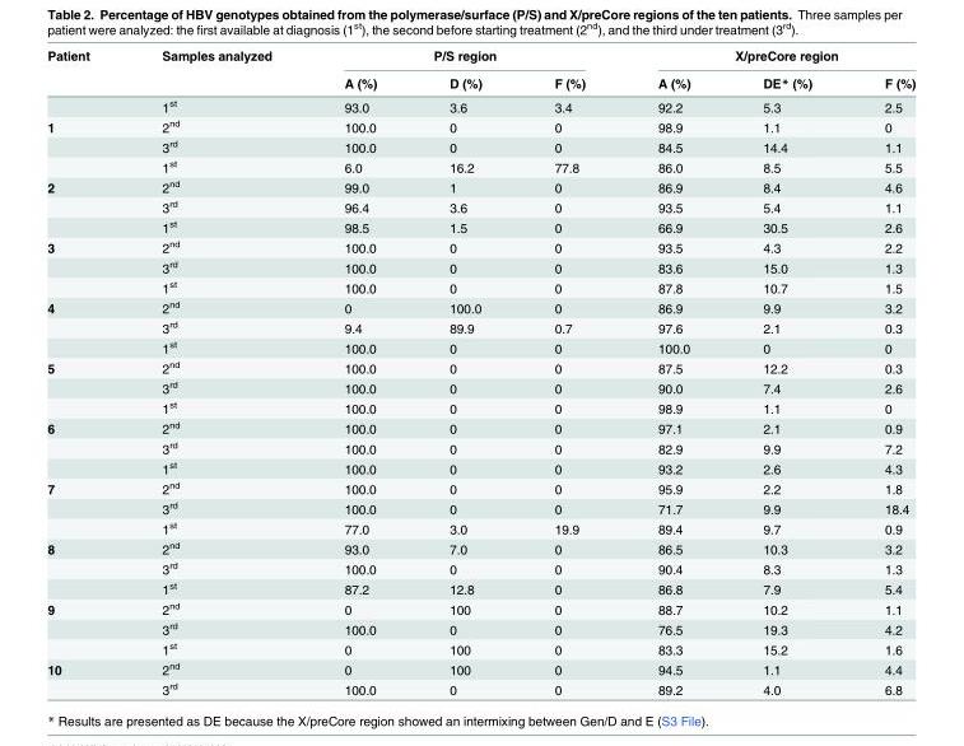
<table><thead><tr><td rowspan="2">Patient</td><td rowspan="2">Samples analyzed</td><td colspan="3">P/S region</td><td colspan="3">X/preCore region</td></tr><tr><td>A (%)</td><td>D (%)</td><td>F (%)</td><td>A (%)</td><td>DE* (%)</td><td>F (%)</td></tr></thead><tbody><tr><td></td><td>1<sup>st</sup></td><td>93.0</td><td>3.6</td><td>3.4</td><td>92.2</td><td>5.3</td><td>2.5</td></tr><tr><td rowspan="3">1</td><td>2<sup>nd</sup></td><td>100.0</td><td>0</td><td>0</td><td>98.9</td><td>1.1</td><td>0</td></tr><tr><td>3<sup>rd</sup></td><td>100.0</td><td>0</td><td>0</td><td>84.5</td><td>14.4</td><td>1.1</td></tr><tr><td>1<sup>st</sup></td><td>6.0</td><td>16.2</td><td>77.8</td><td>86.0</td><td>8.5</td><td>5.5</td></tr><tr><td rowspan="3">2</td><td>2<sup>nd</sup></td><td>99.0</td><td>1</td><td>0</td><td>86.9</td><td>8.4</td><td>4.6</td></tr><tr><td>3<sup>rd</sup></td><td>96.4</td><td>3.6</td><td>0</td><td>93.5</td><td>5.4</td><td>1.1</td></tr><tr><td>1<sup>st</sup></td><td>98.5</td><td>1.5</td><td>0</td><td>66.9</td><td>30.5</td><td>2.6</td></tr><tr><td rowspan="3">3</td><td>2<sup>nd</sup></td><td>100.0</td><td>0</td><td>0</td><td>93.5</td><td>4.3</td><td>2.2</td></tr><tr><td>3<sup>rd</sup></td><td>100.0</td><td>0</td><td>0</td><td>83.6</td><td>15.0</td><td>1.3</td></tr><tr><td>1<sup>st</sup></td><td>100.0</td><td>0</td><td>0</td><td>87.8</td><td>10.7</td><td>1.5</td></tr><tr><td rowspan="3">4</td><td>2<sup>nd</sup></td><td>0</td><td>100.0</td><td>0</td><td>86.9</td><td>9.9</td><td>3.2</td></tr><tr><td>3<sup>rd</sup></td><td>9.4</td><td>89.9</td><td>0.7</td><td>97.6</td><td>2.1</td><td>0.3</td></tr><tr><td>1<sup>st</sup></td><td>100.0</td><td>0</td><td>0</td><td>100.0</td><td>0</td><td>0</td></tr><tr><td rowspan="3">5</td><td>2<sup>nd</sup></td><td>100.0</td><td>0</td><td>0</td><td>87.5</td><td>12.2</td><td>0.3</td></tr><tr><td>3<sup>rd</sup></td><td>100.0</td><td>0</td><td>0</td><td>90.0</td><td>7.4</td><td>2.6</td></tr><tr><td>1<sup>st</sup></td><td>100.0</td><td>0</td><td>0</td><td>98.9</td><td>1.1</td><td>0</td></tr><tr><td rowspan="3">6</td><td>2<sup>nd</sup></td><td>100.0</td><td>0</td><td>0</td><td>97.1</td><td>2.1</td><td>0.9</td></tr><tr><td>3<sup>rd</sup></td><td>100.0</td><td>0</td><td>0</td><td>82.9</td><td>9.9</td><td>7.2</td></tr><tr><td>1<sup>st</sup></td><td>100.0</td><td>0</td><td>0</td><td>93.2</td><td>2.6</td><td>4.3</td></tr><tr><td rowspan="3">7</td><td>2<sup>nd</sup></td><td>100.0</td><td>0</td><td>0</td><td>95.9</td><td>2.2</td><td>1.8</td></tr><tr><td>3<sup>rd</sup></td><td>100.0</td><td>0</td><td>0</td><td>71.7</td><td>9.9</td><td>18.4</td></tr><tr><td>1<sup>st</sup></td><td>77.0</td><td>3.0</td><td>19.9</td><td>89.4</td><td>9.7</td><td>0.9</td></tr><tr><td rowspan="3">8</td><td>2<sup>nd</sup></td><td>93.0</td><td>7.0</td><td>0</td><td>86.5</td><td>10.3</td><td>3.2</td></tr><tr><td>3<sup>rd</sup></td><td>100.0</td><td>0</td><td>0</td><td>90.4</td><td>8.3</td><td>1.3</td></tr><tr><td>1<sup>st</sup></td><td>87.2</td><td>12.8</td><td>0</td><td>86.8</td><td>7.9</td><td>5.4</td></tr><tr><td rowspan="3">9</td><td>2<sup>nd</sup></td><td>0</td><td>100</td><td>0</td><td>88.7</td><td>10.2</td><td>1.1</td></tr><tr><td>3<sup>rd</sup></td><td>100.0</td><td>0</td><td>0</td><td>76.5</td><td>19.3</td><td>4.2</td></tr><tr><td>1<sup>st</sup></td><td>0</td><td>100</td><td>0</td><td>83.3</td><td>15.2</td><td>1.6</td></tr><tr><td rowspan="2">10</td><td>2<sup>nd</sup></td><td>0</td><td>100</td><td>0</td><td>94.5</td><td>1.1</td><td>4.4</td></tr><tr><td>3<sup>rd</sup></td><td>100.0</td><td>0</td><td>0</td><td>89.2</td><td>4.0</td><td>6.8</td></tr></tbody></table>